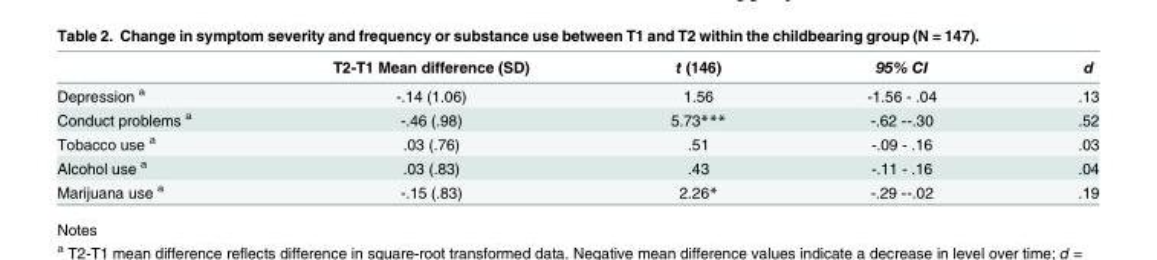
<table><thead><tr><td></td><td>T2-T1 Mean difference (SD)</td><td>t (146)</td><td>95% CI</td><td>d</td></tr></thead><tbody><tr><td>Depression <sup>a</sup></td><td>-.14 (1.06)</td><td>1.56</td><td>-1.56 - .04</td><td>.13</td></tr><tr><td>Conduct problems <sup>a</sup></td><td>-.46 (.98)</td><td>5.73***</td><td>-.62 --.30</td><td>.52</td></tr><tr><td>Tobacco use <sup>a</sup></td><td>.03 (.76)</td><td>.51</td><td>-.09 - .16</td><td>.03</td></tr><tr><td>Alcohol use <sup>a</sup></td><td>.03 (.83)</td><td>.43</td><td>-.11 - .16</td><td>.04</td></tr><tr><td>Marijuana use <sup>a</sup></td><td>-.15 (.83)</td><td>2.26*</td><td>-.29 --.02</td><td>.19</td></tr></tbody></table>